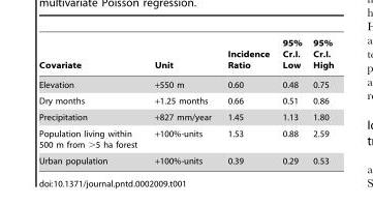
<table><thead><tr><td>Covariate</td><td>Unit</td><td>Incidence Ratio</td><td>95% Cr.I. Low</td><td>95% Cr.I. High</td></tr></thead><tbody><tr><td>Elevation</td><td>+550 m</td><td>0.60</td><td>0.48</td><td>0.75</td></tr><tr><td>Dry months</td><td>+1.25 months</td><td>0.66</td><td>0.51</td><td>0.86</td></tr><tr><td>Precipitation</td><td>+827 mm/year</td><td>1.45</td><td>1.13</td><td>1.80</td></tr><tr><td>Population living within 500 m from &gt;5 ha forest</td><td>+100%-units</td><td>1.53</td><td>0.88</td><td>2.59</td></tr><tr><td>Urban population</td><td>+100%-units</td><td>0.39</td><td>0.29</td><td>0.53</td></tr></tbody></table>